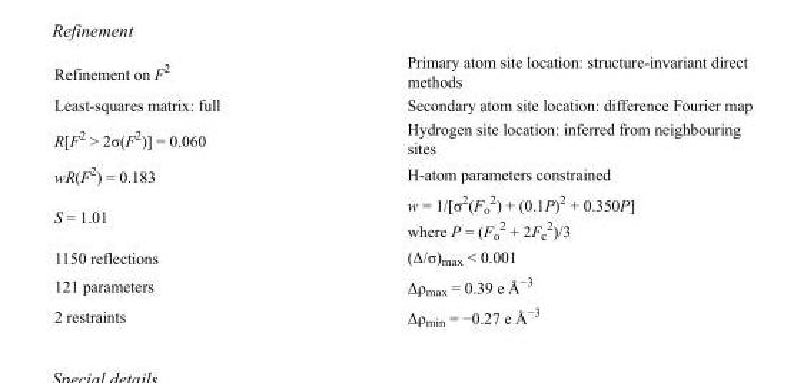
<table><tbody><tr><td>Refinement on F<sup>2</sup></td><td>Primary atom site location: structure-invariant direct methods</td></tr><tr><td>Least-squares matrix: full</td><td>Secondary atom site location: difference Fourier map</td></tr><tr><td>R[F<sup>2</sup> &gt; 2σ(F<sup>2</sup>)] = 0.060</td><td>Hydrogen site location: inferred from neighbouring sites</td></tr><tr><td>wR(F<sup>2</sup>) = 0.183</td><td>H-atom parameters constrained</td></tr><tr><td>S = 1.01</td><td>w = 1/[σ<sup>2</sup>(F<sub>o</sub> <sup>2</sup>) + (0.1P)<sup>2</sup> + 0.350P] where P = (F<sub>o</sub> <sup>2</sup> + 2F<sub>c</sub> <sup>2</sup>)/3</td></tr><tr><td>1150 reflections</td><td>(Δ/σ)<sub>max</sub> &lt; 0.001</td></tr><tr><td>121 parameters</td><td>Δρ<sub>max</sub> = 0.39 e Å<sup>−3</sup></td></tr><tr><td>2 restraints</td><td>Δρ<sub>min</sub> = −0.27 e Å<sup>−3</sup></td></tr></tbody></table>